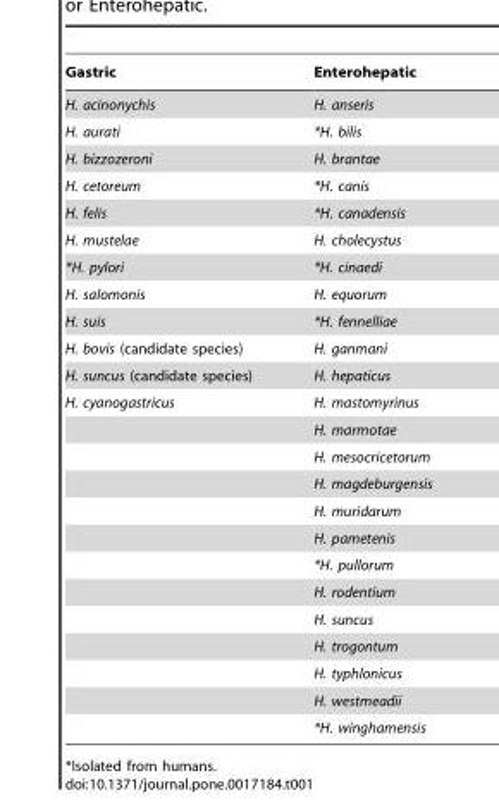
<table><thead><tr><td>Gastric</td><td>Enterohepatic</td></tr></thead><tbody><tr><td>H. acinonychis</td><td>H. anseris</td></tr><tr><td>H. aurati</td><td>*H. bilis</td></tr><tr><td>H. bizzozeroni</td><td>H. brantae</td></tr><tr><td>H. cetoreum</td><td>*H. canis</td></tr><tr><td>H. felis</td><td>*H. canadensis</td></tr><tr><td>H. mustelae</td><td>H. cholecystus</td></tr><tr><td>*H. pylori</td><td>*H. cinaedi</td></tr><tr><td>H. salomonis</td><td>H. equorum</td></tr><tr><td>H. suis</td><td>*H. fennelliae</td></tr><tr><td>H. bovis (candidate species)</td><td>H. ganmani</td></tr><tr><td>H. suncus (candidate species)</td><td>H. hepaticus</td></tr><tr><td rowspan="13">H. cyanogastricus</td><td>H. mastomyrinus</td></tr><tr><td>H. marmotae</td></tr><tr><td>H. mesocricetorum</td></tr><tr><td>H. magdeburgensis</td></tr><tr><td>H. muridarum</td></tr><tr><td>H. pametenis</td></tr><tr><td>*H. pullorum</td></tr><tr><td>H. rodentium</td></tr><tr><td>H. suncus</td></tr><tr><td>H. trogontum</td></tr><tr><td>H. typhlonicus</td></tr><tr><td>H. westmeadii</td></tr><tr><td>*H. winghamensis</td></tr></tbody></table>